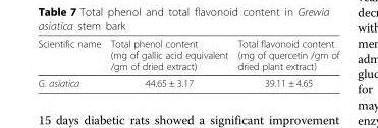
<table><thead><tr><td>Scientific name</td><td>Total phenol content (mg of gallic acid equivalent /gm of dried extract)</td><td>Total flavonoid content (mg of quercetin /gm of dried plant extract)</td></tr></thead><tbody><tr><td>G. asiatica</td><td>44.65 ± 3.17</td><td>39.11 ± 4.65</td></tr></tbody></table>